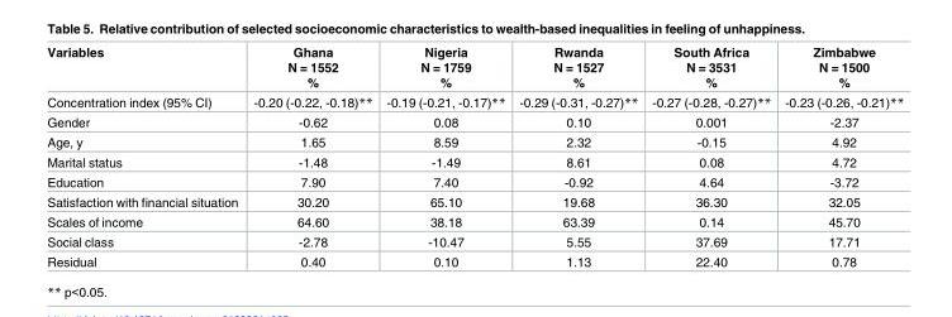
<table><thead><tr><td>Variables</td><td>Ghana N = 1552 %</td><td>Nigeria N = 1759 %</td><td>Rwanda N = 1527 %</td><td>South Africa N = 3531 %</td><td>Zimbabwe N = 1500 %</td></tr></thead><tbody><tr><td>Concentration index (95% CI)</td><td>-0.20 (-0.22, -0.18)**</td><td>-0.19 (-0.21, -0.17)**</td><td>-0.29 (-0.31, -0.27)**</td><td>-0.27 (-0.28, -0.27)**</td><td>-0.23 (-0.26, -0.21)**</td></tr><tr><td>Gender</td><td>-0.62</td><td>0.08</td><td>0.10</td><td>0.001</td><td>-2.37</td></tr><tr><td>Age, y</td><td>1.65</td><td>8.59</td><td>2.32</td><td>-0.15</td><td>4.92</td></tr><tr><td>Marital status</td><td>-1.48</td><td>-1.49</td><td>8.61</td><td>0.08</td><td>4.72</td></tr><tr><td>Education</td><td>7.90</td><td>7.40</td><td>-0.92</td><td>4.64</td><td>-3.72</td></tr><tr><td>Satisfaction with financial situation</td><td>30.20</td><td>65.10</td><td>19.68</td><td>36.30</td><td>32.05</td></tr><tr><td>Scales of income</td><td>64.60</td><td>38.18</td><td>63.39</td><td>0.14</td><td>45.70</td></tr><tr><td>Social class</td><td>-2.78</td><td>-10.47</td><td>5.55</td><td>37.69</td><td>17.71</td></tr><tr><td>Residual</td><td>0.40</td><td>0.10</td><td>1.13</td><td>22.40</td><td>0.78</td></tr></tbody></table>